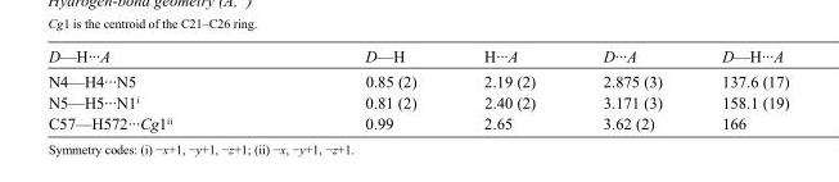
<table><tbody><tr><td>D—H···A</td><td>D—H</td><td>H···A</td><td>D···A</td><td>D—H···A</td></tr><tr><td>N4—H4···N5</td><td>0.85 (2)</td><td>2.19 (2)</td><td>2.875 (3)</td><td>137.6 (17)</td></tr><tr><td>N5—H5···N1<sup>i</sup></td><td>0.81 (2)</td><td>2.40 (2)</td><td>3.171 (3)</td><td>158.1 (19)</td></tr><tr><td>C57—H572···Cg1<sup>ii</sup></td><td>0.99</td><td>2.65</td><td>3.62 (2)</td><td>166</td></tr></tbody></table>